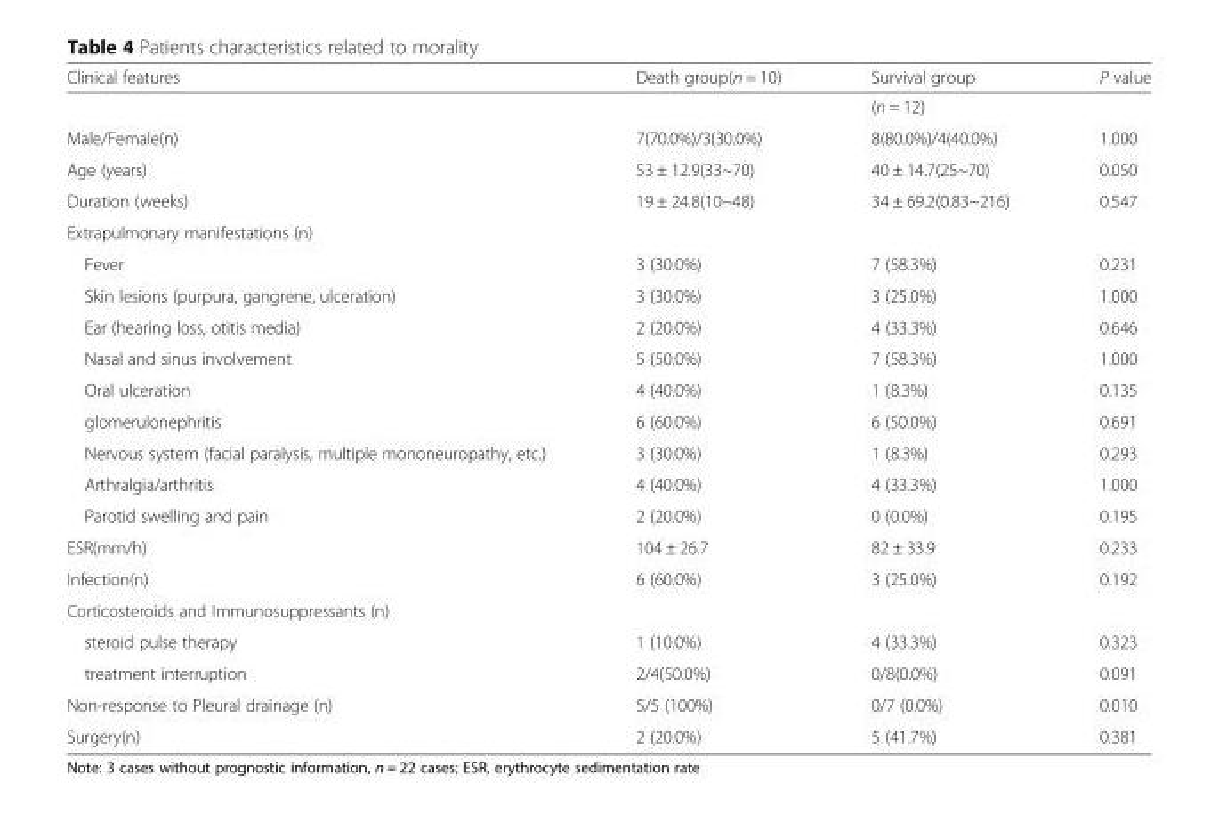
<table><thead><tr><td>Clinical features</td><td>Death group(n = 10)</td><td>Survival group</td><td>P value</td></tr></thead><tbody><tr><td></td><td></td><td>(n = 12)</td><td></td></tr><tr><td>Male/Female(n)</td><td>7(70.0%)/3(30.0%)</td><td>8(80.0%)/4(40.0%)</td><td>1.000</td></tr><tr><td>Age (years)</td><td>53 ± 12.9(33~70)</td><td>40 ± 14.7(25~70)</td><td>0.050</td></tr><tr><td>Duration (weeks)</td><td>19 ± 24.8(10~48)</td><td>34 ± 69.2(0.83~216)</td><td>0.547</td></tr><tr><td colspan="4">Extrapulmonary manifestations (n)</td></tr><tr><td>Fever</td><td>3 (30.0%)</td><td>7 (58.3%)</td><td>0.231</td></tr><tr><td>Skin lesions (purpura, gangrene, ulceration)</td><td>3 (30.0%)</td><td>3 (25.0%)</td><td>1.000</td></tr><tr><td>Ear (hearing loss, otitis media)</td><td>2 (20.0%)</td><td>4 (33.3%)</td><td>0.646</td></tr><tr><td>Nasal and sinus involvement</td><td>5 (50.0%)</td><td>7 (58.3%)</td><td>1.000</td></tr><tr><td>Oral ulceration</td><td>4 (40.0%)</td><td>1 (8.3%)</td><td>0.135</td></tr><tr><td>glomerulonephritis</td><td>6 (60.0%)</td><td>6 (50.0%)</td><td>0.691</td></tr><tr><td>Nervous system (facial paralysis, multiple mononeuropathy, etc.)</td><td>3 (30.0%)</td><td>1 (8.3%)</td><td>0.293</td></tr><tr><td>Arthralgia/arthritis</td><td>4 (40.0%)</td><td>4 (33.3%)</td><td>1.000</td></tr><tr><td>Parotid swelling and pain</td><td>2 (20.0%)</td><td>0 (0.0%)</td><td>0.195</td></tr><tr><td>ESR(mm/h)</td><td>104 ± 26.7</td><td>82 ± 33.9</td><td>0.233</td></tr><tr><td>Infection(n)</td><td>6 (60.0%)</td><td>3 (25.0%)</td><td>0.192</td></tr><tr><td colspan="4">Corticosteroids and Immunosuppressants (n)</td></tr><tr><td>steroid pulse therapy</td><td>1 (10.0%)</td><td>4 (33.3%)</td><td>0.323</td></tr><tr><td>treatment interruption</td><td>2/4(50.0%)</td><td>0/8(0.0%)</td><td>0.091</td></tr><tr><td>Non-response to Pleural drainage (n)</td><td>5/5 (100%)</td><td>0/7 (0.0%)</td><td>0.010</td></tr><tr><td>Surgery(n)</td><td>2 (20.0%)</td><td>5 (41.7%)</td><td>0.381</td></tr></tbody></table>